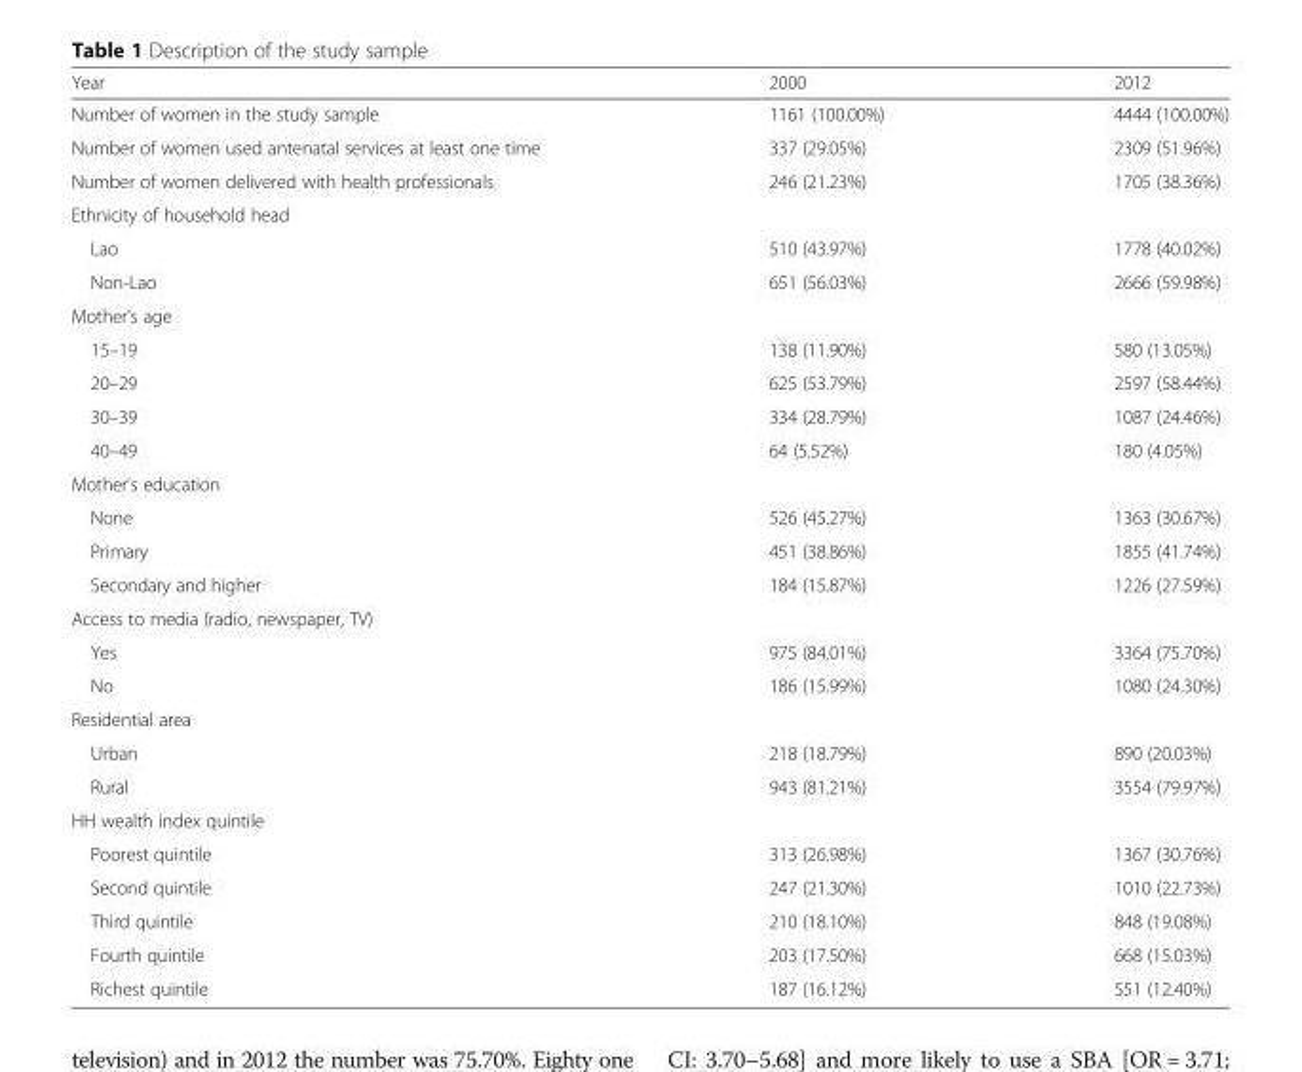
<table><thead><tr><td>Year</td><td>2000</td><td>2012</td></tr></thead><tbody><tr><td>Number of women in the study sample</td><td>1161 (100.00%)</td><td>4444 (100.00%)</td></tr><tr><td>Number of women used antenatal services at least one time</td><td>337 (29.05%)</td><td>2309 (51.96%)</td></tr><tr><td>Number of women delivered with health professionals</td><td>246 (21.23%)</td><td>1705 (38.36%)</td></tr><tr><td colspan="3">Ethnicity of household head</td></tr><tr><td>Lao</td><td>510 (43.97%)</td><td>1778 (40.02%)</td></tr><tr><td>Non-Lao</td><td>651 (56.03%)</td><td>2666 (59.98%)</td></tr><tr><td colspan="3">Mother’s age</td></tr><tr><td>15–19</td><td>138 (11.90%)</td><td>580 (13.05%)</td></tr><tr><td>20–29</td><td>625 (53.79%)</td><td>2597 (58.44%)</td></tr><tr><td>30–39</td><td>334 (28.79%)</td><td>1087 (24.46%)</td></tr><tr><td>40–49</td><td>64 (5.52%)</td><td>180 (4.05%)</td></tr><tr><td colspan="3">Mother’s education</td></tr><tr><td>None</td><td>526 (45.27%)</td><td>1363 (30.67%)</td></tr><tr><td>Primary</td><td>451 (38.86%)</td><td>1855 (41.74%)</td></tr><tr><td>Secondary and higher</td><td>184 (15.87%)</td><td>1226 (27.59%)</td></tr><tr><td colspan="3">Access to media (radio, newspaper, TV)</td></tr><tr><td>Yes</td><td>975 (84.01%)</td><td>3364 (75.70%)</td></tr><tr><td>No</td><td>186 (15.99%)</td><td>1080 (24.30%)</td></tr><tr><td colspan="3">Residential area</td></tr><tr><td>Urban</td><td>218 (18.79%)</td><td>890 (20.03%)</td></tr><tr><td>Rural</td><td>943 (81.21%)</td><td>3554 (79.97%)</td></tr><tr><td colspan="3">HH wealth index quintile</td></tr><tr><td>Poorest quintile</td><td>313 (26.98%)</td><td>1367 (30.76%)</td></tr><tr><td>Second quintile</td><td>247 (21.30%)</td><td>1010 (22.73%)</td></tr><tr><td>Third quintile</td><td>210 (18.10%)</td><td>848 (19.08%)</td></tr><tr><td>Fourth quintile</td><td>203 (17.50%)</td><td>668 (15.03%)</td></tr><tr><td>Richest quintile</td><td>187 (16.12%)</td><td>551 (12.40%)</td></tr></tbody></table>